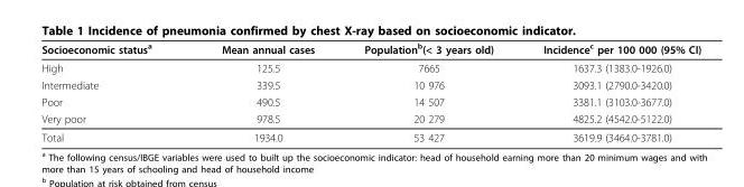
<table><thead><tr><td>Socioeconomic status<sup>a</sup></td><td>Mean annual cases</td><td>Population<sup>b</sup>(&lt; 3 years old)</td><td>Incidence<sup>c</sup> per 100 000 (95% CI)</td></tr></thead><tbody><tr><td>High</td><td>125.5</td><td>7665</td><td>1637.3 (1383.0-1926.0)</td></tr><tr><td>Intermediate</td><td>339.5</td><td>10 976</td><td>3093.1 (2790.0-3420.0)</td></tr><tr><td>Poor</td><td>490.5</td><td>14 507</td><td>3381.1 (3103.0-3677.0)</td></tr><tr><td>Very poor</td><td>978.5</td><td>20 279</td><td>4825.2 (4542.0-5122.0)</td></tr><tr><td>Total</td><td>1934.0</td><td>53 427</td><td>3619.9 (3464.0-3781.0)</td></tr></tbody></table>